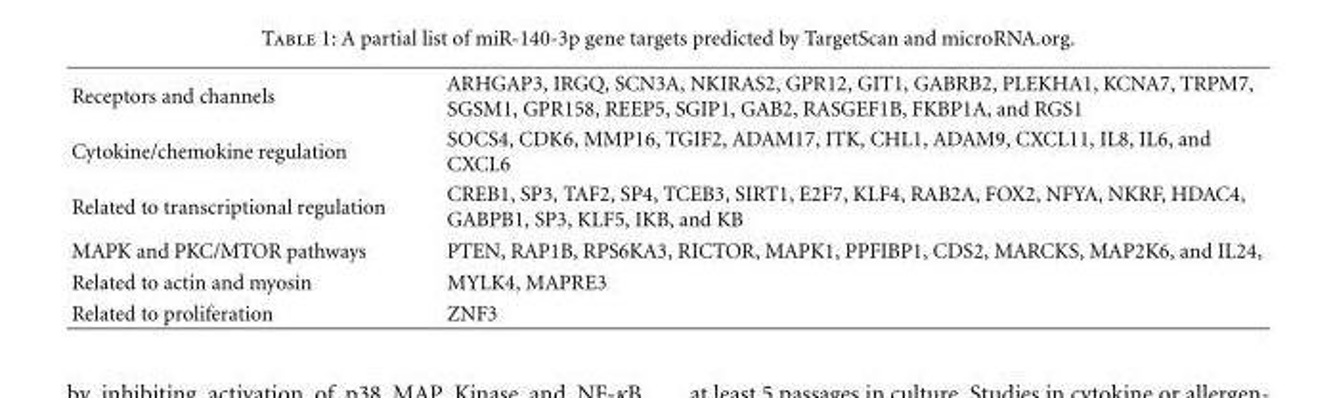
<table><tbody><tr><td>Receptors and channels</td><td>ARHGAP3, IRGQ, SCN3A, NKIRAS2, GPR12, GIT1, GABRB2, PLEKHA1, KCNA7, TRPM7, SGSM1, GPR158, REEP5, SGIP1, GAB2, RASGEF1B, FKBP1A, and RGS1</td></tr><tr><td>Cytokine/chemokine regulation</td><td>SOCS4, CDK6, MMP16, TGIF2, ADAM17, ITK, CHL1, ADAM9, CXCL11, IL8, IL6, and CXCL6</td></tr><tr><td>Related to transcriptional regulation</td><td>CREB1, SP3, TAF2, SP4, TCEB3, SIRT1, E2F7, KLF4, RAB2A, FOX2, NFYA, NKRF, HDAC4, GABPB1, SP3, KLF5, IKB, and KB</td></tr><tr><td>MAPK and PKC/MTOR pathways</td><td>PTEN, RAP1B, RPS6KA3, RICTOR, MAPK1, PPFIBP1, CDS2, MARCKS, MAP2K6, and IL24,</td></tr><tr><td>Related to actin and myosin</td><td>MYLK4, MAPRE3</td></tr><tr><td>Related to proliferation</td><td>ZNF3</td></tr></tbody></table>